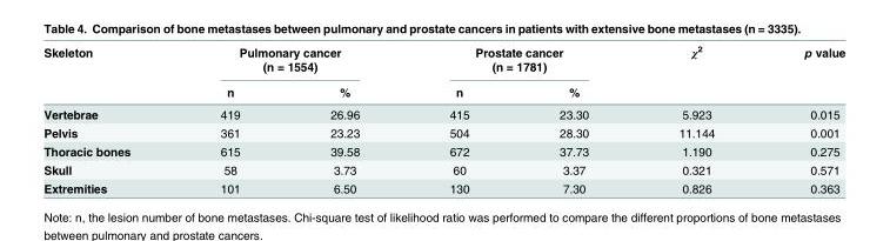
<table><thead><tr><td rowspan="2">Skeleton</td><td colspan="2">Pulmonary cancer (n = 1554)</td><td colspan="2">Prostate cancer (n = 1781)</td><td rowspan="2">χ<sup>2</sup></td><td rowspan="2">p value</td></tr><tr><td>n</td><td>%</td><td>n</td><td>%</td></tr></thead><tbody><tr><td>Vertebrae</td><td>419</td><td>26.96</td><td>415</td><td>23.30</td><td>5.923</td><td>0.015</td></tr><tr><td>Pelvis</td><td>361</td><td>23.23</td><td>504</td><td>28.30</td><td>11.144</td><td>0.001</td></tr><tr><td>Thoracic bones</td><td>615</td><td>39.58</td><td>672</td><td>37.73</td><td>1.190</td><td>0.275</td></tr><tr><td>Skull</td><td>58</td><td>3.73</td><td>60</td><td>3.37</td><td>0.321</td><td>0.571</td></tr><tr><td>Extremities</td><td>101</td><td>6.50</td><td>130</td><td>7.30</td><td>0.826</td><td>0.363</td></tr></tbody></table>